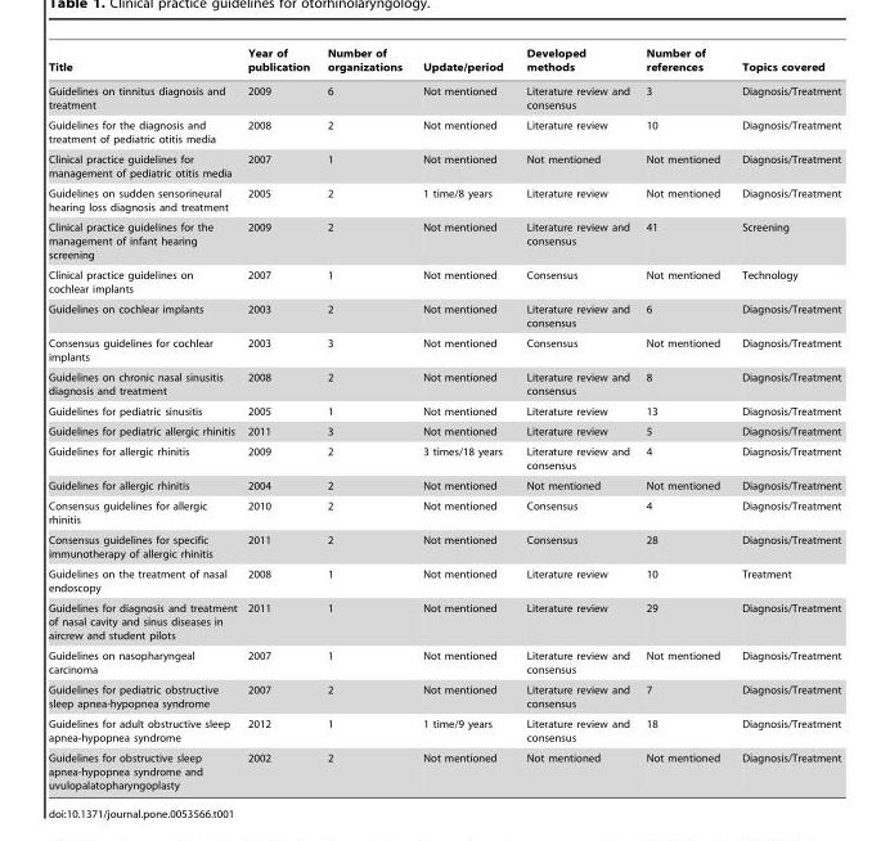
<table><thead><tr><td>Title</td><td>Year of publication</td><td>Number of organizations</td><td>Update/period</td><td>Developed methods</td><td>Number of references</td><td>Topics covered</td></tr></thead><tbody><tr><td>Guidelines on tinnitus diagnosis and treatment</td><td>2009</td><td>6</td><td>Not mentioned</td><td>Literature review and consensus</td><td>3</td><td>Diagnosis/Treatment</td></tr><tr><td>Guidelines for the diagnosis and treatment of pediatric otitis media</td><td>2008</td><td>2</td><td>Not mentioned</td><td>Literature review</td><td>10</td><td>Diagnosis/Treatment</td></tr><tr><td>Clinical practice guidelines for management of pediatric otitis media</td><td>2007</td><td>1</td><td>Not mentioned</td><td>Not mentioned</td><td>Not mentioned</td><td>Diagnosis/Treatment</td></tr><tr><td>Guidelines on sudden sensorineural hearing loss diagnosis and treatment</td><td>2005</td><td>2</td><td>1 time/8 years</td><td>Literature review</td><td>Not mentioned</td><td>Diagnosis/Treatment</td></tr><tr><td>Clinical practice guidelines for the management of infant hearing screening</td><td>2009</td><td>2</td><td>Not mentioned</td><td>Literature review and consensus</td><td>41</td><td>Screening</td></tr><tr><td>Clinical practice guidelines on cochlear implants</td><td>2007</td><td>1</td><td>Not mentioned</td><td>Consensus</td><td>Not mentioned</td><td>Technology</td></tr><tr><td>Guidelines on cochlear implants</td><td>2003</td><td>2</td><td>Not mentioned</td><td>Literature review and consensus</td><td>6</td><td>Diagnosis/Treatment</td></tr><tr><td>Consensus guidelines for cochlear implants</td><td>2003</td><td>3</td><td>Not mentioned</td><td>Consensus</td><td>Not mentioned</td><td>Diagnosis/Treatment</td></tr><tr><td>Guidelines on chronic nasal sinusitis diagnosis and treatment</td><td>2008</td><td>2</td><td>Not mentioned</td><td>Literature review and consensus</td><td>8</td><td>Diagnosis/Treatment</td></tr><tr><td>Guidelines for pediatric sinusitis</td><td>2005</td><td>1</td><td>Not mentioned</td><td>Literature review</td><td>13</td><td>Diagnosis/Treatment</td></tr><tr><td>Guidelines for pediatric allergic rhinitis</td><td>2011</td><td>3</td><td>Not mentioned</td><td>Literature review</td><td>5</td><td>Diagnosis/Treatment</td></tr><tr><td>Guidelines for allergic rhinitis</td><td>2009</td><td>2</td><td>3 times/18 years</td><td>Literature review and consensus</td><td>4</td><td>Diagnosis/Treatment</td></tr><tr><td>Guidelines for allergic rhinitis</td><td>2004</td><td>2</td><td>Not mentioned</td><td>Not mentioned</td><td>Not mentioned</td><td>Diagnosis/Treatment</td></tr><tr><td>Consensus guidelines for allergic rhinitis</td><td>2010</td><td>2</td><td>Not mentioned</td><td>Consensus</td><td>4</td><td>Diagnosis/Treatment</td></tr><tr><td>Consensus guidelines for specific immunotherapy of allergic rhinitis</td><td>2011</td><td>2</td><td>Not mentioned</td><td>Consensus</td><td>28</td><td>Diagnosis/Treatment</td></tr><tr><td>Guidelines on the treatment of nasal endoscopy</td><td>2008</td><td>1</td><td>Not mentioned</td><td>Literature review</td><td>10</td><td>Treatment</td></tr><tr><td>Guidelines for diagnosis and treatment of nasal cavity and sinus diseases in aircrew and student pilots</td><td>2011</td><td>1</td><td>Not mentioned</td><td>Literature review</td><td>29</td><td>Diagnosis/Treatment</td></tr><tr><td>Guidelines on nasopharyngeal carcinoma</td><td>2007</td><td>1</td><td>Not mentioned</td><td>Literature review and consensus</td><td>Not mentioned</td><td>Diagnosis/Treatment</td></tr><tr><td>Guidelines for pediatric obstructive sleep apnea-hypopnea syndrome</td><td>2007</td><td>2</td><td>Not mentioned</td><td>Literature review and consensus</td><td>7</td><td>Diagnosis/Treatment</td></tr><tr><td>Guidelines for adult obstructive sleep apnea-hypopnea syndrome</td><td>2012</td><td>1</td><td>1 time/9 years</td><td>Literature review and consensus</td><td>18</td><td>Diagnosis/Treatment</td></tr><tr><td>Guidelines for obstructive sleep apnea-hypopnea syndrome and uvulopalatopharyngoplasty</td><td>2002</td><td>2</td><td>Not mentioned</td><td>Not mentioned</td><td>Not mentioned</td><td>Diagnosis/Treatment</td></tr></tbody></table>